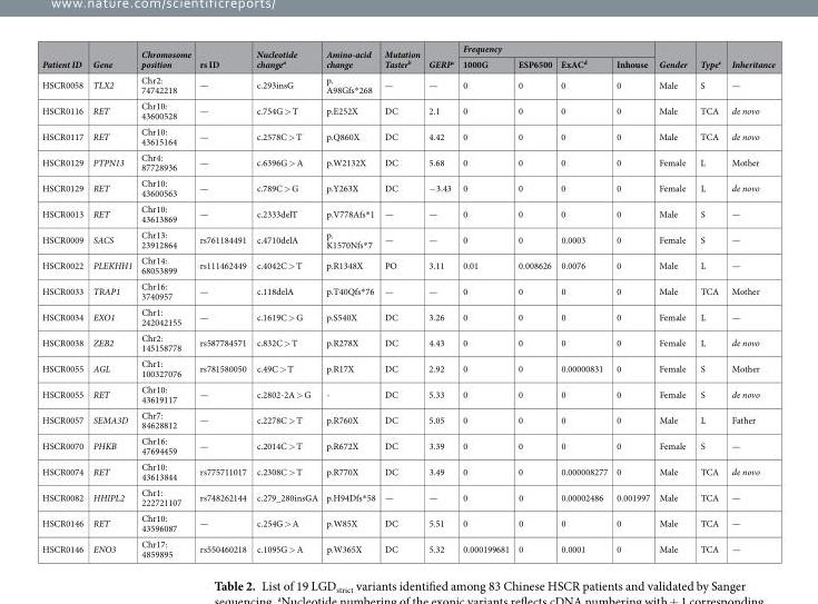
<table><thead><tr><td rowspan="2">Patient ID</td><td rowspan="2">Gene</td><td rowspan="2">Chromosome position</td><td rowspan="2">rs ID</td><td rowspan="2">Nucleotide change<sup>a</sup></td><td rowspan="2">Amino-acid change</td><td rowspan="2">Mutation Taster<sup>b</sup></td><td rowspan="2">GERP<sup>c</sup></td><td colspan="4">Frequency</td><td rowspan="2">Gender</td><td rowspan="2">Type<sup>e</sup></td><td rowspan="2">Inheritance</td></tr><tr><td>1000G</td><td>ESP6500</td><td>ExAC<sup>d</sup></td><td>Inhouse</td></tr></thead><tbody><tr><td>HSCR0058</td><td>TLX2</td><td>Chr2: 74742218</td><td>—</td><td>c.293insG</td><td>p. A98Gfs*268</td><td>—</td><td>—</td><td>0</td><td>0</td><td>0</td><td>0</td><td>Male</td><td>S</td><td>—</td></tr><tr><td>HSCR0116</td><td>RET</td><td>Chr10: 43600528</td><td>—</td><td>c.754G &gt; T</td><td>p.E252X</td><td>DC</td><td>2.1</td><td>0</td><td>0</td><td>0</td><td>0</td><td>Male</td><td>TCA</td><td>de novo</td></tr><tr><td>HSCR0117</td><td>RET</td><td>Chr10: 43615164</td><td>—</td><td>c.2578C &gt; T</td><td>p.Q860X</td><td>DC</td><td>4.42</td><td>0</td><td>0</td><td>0</td><td>0</td><td>Male</td><td>TCA</td><td>de novo</td></tr><tr><td>HSCR0129</td><td>PTPN13</td><td>Chr4: 87728936</td><td>—</td><td>c.6396G &gt; A</td><td>p.W2132X</td><td>DC</td><td>5.68</td><td>0</td><td>0</td><td>0</td><td>0</td><td>Female</td><td>L</td><td>Mother</td></tr><tr><td>HSCR0129</td><td>RET</td><td>Chr10: 43600563</td><td>—</td><td>c.789C &gt; G</td><td>p.Y263X</td><td>DC</td><td>−3.43</td><td>0</td><td>0</td><td>0</td><td>0</td><td>Female</td><td>L</td><td>de novo</td></tr><tr><td>HSCR0013</td><td>RET</td><td>Chr10: 43613869</td><td>—</td><td>c.2333delT</td><td>p.V778Afs*1</td><td>—</td><td>—</td><td>0</td><td>0</td><td>0</td><td>0</td><td>Male</td><td>S</td><td>—</td></tr><tr><td>HSCR0009</td><td>SACS</td><td>Chr13: 23912864</td><td>rs761184491</td><td>c.4710delA</td><td>p. K1570Nfs*7</td><td>—</td><td>—</td><td>0</td><td>0</td><td>0.0003</td><td>0</td><td>Female</td><td>S</td><td>—</td></tr><tr><td>HSCR0022</td><td>PLEKHH1</td><td>Chr14: 68053899</td><td>rs111462449</td><td>c.4042C &gt; T</td><td>p.R1348X</td><td>PO</td><td>3.11</td><td>0.01</td><td>0.008626</td><td>0.0076</td><td>0</td><td>Male</td><td>L</td><td>—</td></tr><tr><td>HSCR0033</td><td>TRAP1</td><td>Chr16: 3740957</td><td>—</td><td>c.118delA</td><td>p.T40Qfs*76</td><td>—</td><td>—</td><td>0</td><td>0</td><td>0</td><td>0</td><td>Male</td><td>TCA</td><td>Mother</td></tr><tr><td>HSCR0034</td><td>EXO1</td><td>Chr1: 242042155</td><td>—</td><td>c.1619C &gt; G</td><td>p.S540X</td><td>DC</td><td>3.26</td><td>0</td><td>0</td><td>0</td><td>0</td><td>Female</td><td>L</td><td>—</td></tr><tr><td>HSCR0038</td><td>ZEB2</td><td>Chr2: 145158778</td><td>rs587784571</td><td>c.832C &gt; T</td><td>p.R278X</td><td>DC</td><td>4.43</td><td>0</td><td>0</td><td>0</td><td>0</td><td>Female</td><td>L</td><td>de novo</td></tr><tr><td>HSCR0055</td><td>AGL</td><td>Chr1: 100327076</td><td>rs781580050</td><td>c.49C &gt; T</td><td>p.R17X</td><td>DC</td><td>2.92</td><td>0</td><td>0</td><td>0.00000831</td><td>0</td><td>Female</td><td>S</td><td>Mother</td></tr><tr><td>HSCR0055</td><td>RET</td><td>Chr10: 43619117</td><td>—</td><td>c.2802-2A &gt; G</td><td>-</td><td>DC</td><td>5.33</td><td>0</td><td>0</td><td>0</td><td>0</td><td>Female</td><td>S</td><td>de novo</td></tr><tr><td>HSCR0057</td><td>SEMA3D</td><td>Chr7: 84628812</td><td>—</td><td>c.2278C &gt; T</td><td>p.R760X</td><td>DC</td><td>5.05</td><td>0</td><td>0</td><td>0</td><td>0</td><td>Male</td><td>L</td><td>Father</td></tr><tr><td>HSCR0070</td><td>PHKB</td><td>Chr16: 47694459</td><td>—</td><td>c.2014C &gt; T</td><td>p.R672X</td><td>DC</td><td>3.39</td><td>0</td><td>0</td><td>0</td><td>0</td><td>Female</td><td>S</td><td>—</td></tr><tr><td>HSCR0074</td><td>RET</td><td>Chr10: 43613844</td><td>rs775711017</td><td>c.2308C &gt; T</td><td>p.R770X</td><td>DC</td><td>3.49</td><td>0</td><td>0</td><td>0.000008277</td><td>0</td><td>Male</td><td>TCA</td><td>de novo</td></tr><tr><td>HSCR0082</td><td>HHIPL2</td><td>Chr1: 222721107</td><td>rs748262144</td><td>c.279_280insGA</td><td>p.H94Dfs*58</td><td>—</td><td>—</td><td>0</td><td>0</td><td>0.00002486</td><td>0.001997</td><td>Male</td><td>TCA</td><td>—</td></tr><tr><td>HSCR0146</td><td>RET</td><td>Chr10: 43596087</td><td>—</td><td>c.254G &gt; A</td><td>p.W85X</td><td>DC</td><td>5.51</td><td>0</td><td>0</td><td>0</td><td>0</td><td>Male</td><td>TCA</td><td>—</td></tr><tr><td>HSCR0146</td><td>ENO3</td><td>Chr17: 4859895</td><td>rs550460218</td><td>c.1095G &gt; A</td><td>p.W365X</td><td>DC</td><td>5.32</td><td>0.000199681</td><td>0</td><td>0.0001</td><td>0</td><td>Male</td><td>TCA</td><td>—</td></tr></tbody></table>